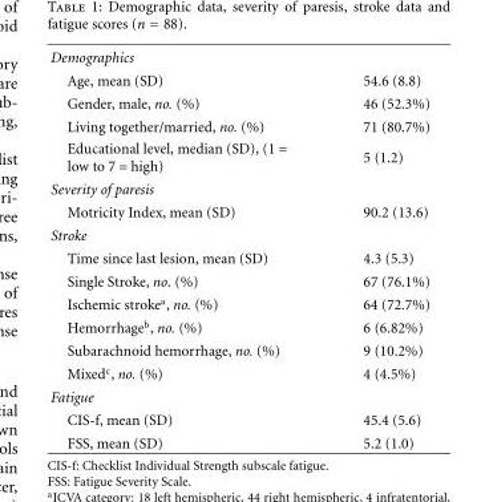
<table><tbody><tr><td colspan="2">Demographics</td></tr><tr><td>Age, mean (SD)</td><td>54.6 (8.8)</td></tr><tr><td>Gender, male, no. (%)</td><td>46 (52.3%)</td></tr><tr><td>Living together/married, no. (%)</td><td>71 (80.7%)</td></tr><tr><td>Educational level, median (SD), (1 = low to 7 = high)</td><td>5 (1.2)</td></tr><tr><td colspan="2">Severity of paresis</td></tr><tr><td>Motricity Index, mean (SD)</td><td>90.2 (13.6)</td></tr><tr><td colspan="2">Stroke</td></tr><tr><td>Time since last lesion, mean (SD)</td><td>4.3 (5.3)</td></tr><tr><td>Single Stroke, no. (%)</td><td>67 (76.1%)</td></tr><tr><td>Ischemic stroke<sup>a</sup>, no. (%)</td><td>64 (72.7%)</td></tr><tr><td>Hemorrhage<sup>b</sup>, no. (%)</td><td>6 (6.82%)</td></tr><tr><td>Subarachnoid hemorrhage, no. (%)</td><td>9 (10.2%)</td></tr><tr><td>Mixed<sup>c</sup>, no. (%)</td><td>4 (4.5%)</td></tr><tr><td colspan="2">Fatigue</td></tr><tr><td>CIS-f, mean (SD)</td><td>45.4 (5.6)</td></tr><tr><td>FSS, mean (SD)</td><td>5.2 (1.0)</td></tr></tbody></table>